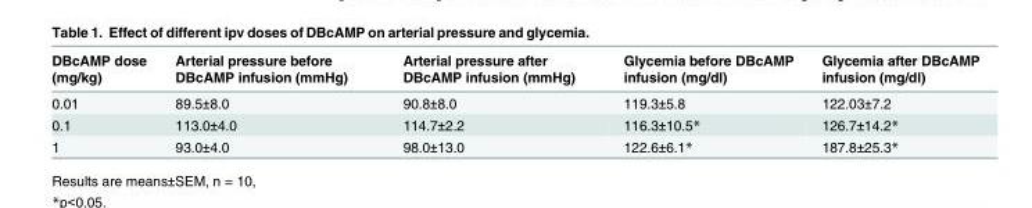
<table><thead><tr><td>DBcAMP dose (mg/kg)</td><td>Arterial pressure before DBcAMP infusion (mmHg)</td><td>Arterial pressure after DBcAMP infusion (mmHg)</td><td>Glycemia before DBcAMP infusion (mg/dl)</td><td>Glycemia after DBcAMP infusion (mg/dl)</td></tr></thead><tbody><tr><td>0.01</td><td>89.5±8.0</td><td>90.8±8.0</td><td>119.3±5.8</td><td>122.03±7.2</td></tr><tr><td>0.1</td><td>113.0±4.0</td><td>114.7±2.2</td><td>116.3±10.5*</td><td>126.7±14.2*</td></tr><tr><td>1</td><td>93.0±4.0</td><td>98.0±13.0</td><td>122.6±6.1*</td><td>187.8±25.3*</td></tr></tbody></table>